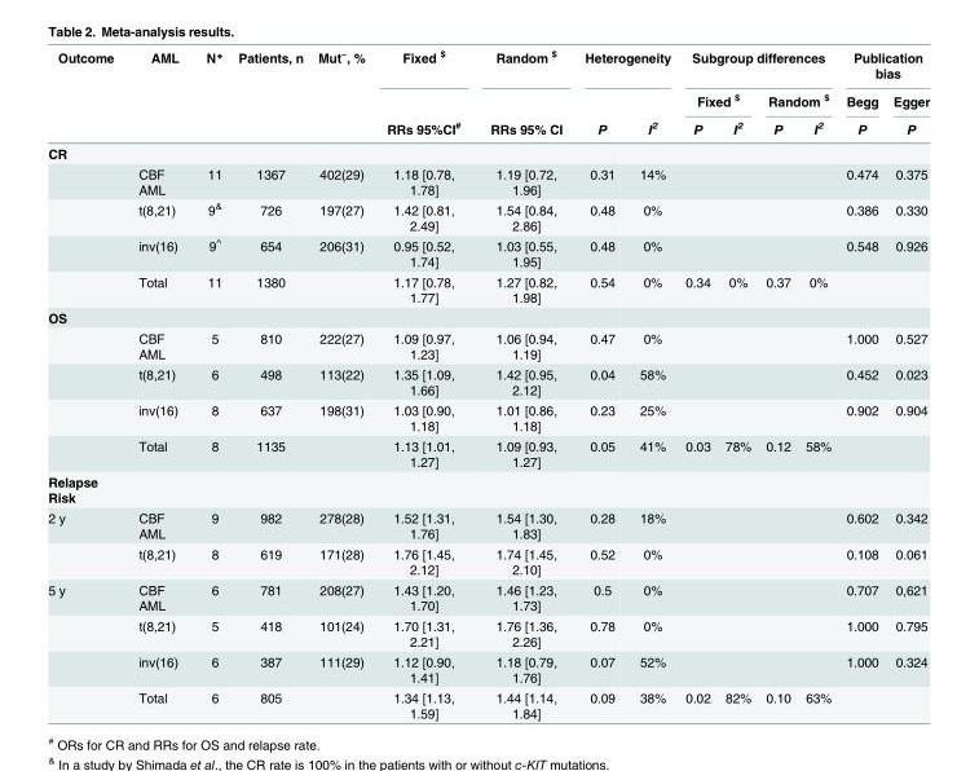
<table><thead><tr><td rowspan="3">Outcome</td><td rowspan="3">AML</td><td rowspan="3">N*</td><td rowspan="3">Patients, n</td><td rowspan="3">Mut<sup>~</sup>, %</td><td rowspan="3">Fixed <sup>$</sup> RRs 95%CI<sup>#</sup></td><td rowspan="3">Random <sup>$</sup> RRs 95% CI</td><td colspan="2">Heterogeneity</td><td colspan="4">Subgroup differences</td><td colspan="2">Publication bias</td></tr><tr><td rowspan="2">P</td><td rowspan="2">I<sup>2</sup></td><td colspan="2">Fixed <sup>$</sup></td><td colspan="2">Random <sup>$</sup></td><td rowspan="2">Begg P</td><td rowspan="2">Egger P</td></tr><tr><td>P</td><td>I<sup>2</sup></td><td>P</td><td>I<sup>2</sup></td></tr></thead><tbody><tr><td colspan="15">CR</td></tr><tr><td></td><td>CBF AML</td><td>11</td><td>1367</td><td>402(29)</td><td>1.18 [0.78, 1.78]</td><td>1.19 [0.72, 1.96]</td><td>0.31</td><td>14%</td><td></td><td></td><td></td><td></td><td>0.474</td><td>0.375</td></tr><tr><td></td><td>t(8,21)</td><td>9<sup>&amp;</sup></td><td>726</td><td>197(27)</td><td>1.42 [0.81, 2.49]</td><td>1.54 [0.84, 2.86]</td><td>0.48</td><td>0%</td><td></td><td></td><td></td><td></td><td>0.386</td><td>0.330</td></tr><tr><td></td><td>inv(16)</td><td>9<sup>^</sup></td><td>654</td><td>206(31)</td><td>0.95 [0.52, 1.74]</td><td>1.03 [0.55, 1.95]</td><td>0.48</td><td>0%</td><td></td><td></td><td></td><td></td><td>0.548</td><td>0.926</td></tr><tr><td></td><td>Total</td><td>11</td><td>1380</td><td></td><td>1.17 [0.78, 1.77]</td><td>1.27 [0.82, 1.98]</td><td>0.54</td><td>0%</td><td>0.34</td><td>0%</td><td>0.37</td><td>0%</td><td></td><td></td></tr><tr><td colspan="15">OS</td></tr><tr><td></td><td>CBF AML</td><td>5</td><td>810</td><td>222(27)</td><td>1.09 [0.97, 1.23]</td><td>1.06 [0.94, 1.19]</td><td>0.47</td><td>0%</td><td></td><td></td><td></td><td></td><td>1.000</td><td>0.527</td></tr><tr><td></td><td>t(8,21)</td><td>6</td><td>498</td><td>113(22)</td><td>1.35 [1.09, 1.66]</td><td>1.42 [0.95, 2.12]</td><td>0.04</td><td>58%</td><td></td><td></td><td></td><td></td><td>0.452</td><td>0.023</td></tr><tr><td></td><td>inv(16)</td><td>8</td><td>637</td><td>198(31)</td><td>1.03 [0.90, 1.18]</td><td>1.01 [0.86, 1.18]</td><td>0.23</td><td>25%</td><td></td><td></td><td></td><td></td><td>0.902</td><td>0.904</td></tr><tr><td></td><td>Total</td><td>8</td><td>1135</td><td></td><td>1.13 [1.01, 1.27]</td><td>1.09 [0.93, 1.27]</td><td>0.05</td><td>41%</td><td>0.03</td><td>78%</td><td>0.12</td><td>58%</td><td></td><td></td></tr><tr><td colspan="15">Relapse Risk</td></tr><tr><td rowspan="2">2 y</td><td>CBF AML</td><td>9</td><td>982</td><td>278(28)</td><td>1.52 [1.31, 1.76]</td><td>1.54 [1.30, 1.83]</td><td>0.28</td><td>18%</td><td></td><td></td><td></td><td></td><td>0.602</td><td>0.342</td></tr><tr><td>t(8,21)</td><td>8</td><td>619</td><td>171(28)</td><td>1.76 [1.45, 2.12]</td><td>1.74 [1.45, 2.10]</td><td>0.52</td><td>0%</td><td></td><td></td><td></td><td></td><td>0.108</td><td>0.061</td></tr><tr><td rowspan="4">5 y</td><td>CBF AML</td><td>6</td><td>781</td><td>208(27)</td><td>1.43 [1.20, 1.70]</td><td>1.46 [1.23, 1.73]</td><td>0.5</td><td>0%</td><td></td><td></td><td></td><td></td><td>0.707</td><td>0,621</td></tr><tr><td>t(8,21)</td><td>5</td><td>418</td><td>101(24)</td><td>1.70 [1.31, 2.21]</td><td>1.76 [1.36, 2.26]</td><td>0.78</td><td>0%</td><td></td><td></td><td></td><td></td><td>1.000</td><td>0.795</td></tr><tr><td>inv(16)</td><td>6</td><td>387</td><td>111(29)</td><td>1.12 [0.90, 1.41]</td><td>1.18 [0.79, 1.76]</td><td>0.07</td><td>52%</td><td></td><td></td><td></td><td></td><td>1.000</td><td>0.324</td></tr><tr><td>Total</td><td>6</td><td>805</td><td></td><td>1.34 [1.13, 1.59]</td><td>1.44 [1.14, 1.84]</td><td>0.09</td><td>38%</td><td>0.02</td><td>82%</td><td>0.10</td><td>63%</td><td></td><td></td></tr></tbody></table>